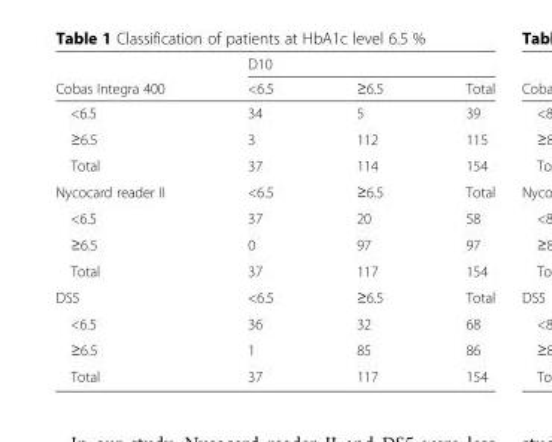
<table><thead><tr><td rowspan="2">Cobas Integra 400</td><td colspan="3">D10</td></tr><tr><td>&lt;6.5</td><td>≥6.5</td><td>Total</td></tr></thead><tbody><tr><td>&lt;6.5</td><td>34</td><td>5</td><td>39</td></tr><tr><td>≥6.5</td><td>3</td><td>112</td><td>115</td></tr><tr><td>Total</td><td>37</td><td>114</td><td>154</td></tr><tr><td>Nycocard reader II</td><td>&lt;6.5</td><td>≥6.5</td><td>Total</td></tr><tr><td>&lt;6.5</td><td>37</td><td>20</td><td>58</td></tr><tr><td>≥6.5</td><td>0</td><td>97</td><td>97</td></tr><tr><td>Total</td><td>37</td><td>117</td><td>154</td></tr><tr><td>DS5</td><td>&lt;6.5</td><td>≥6.5</td><td>Total</td></tr><tr><td>&lt;6.5</td><td>36</td><td>32</td><td>68</td></tr><tr><td>≥6.5</td><td>1</td><td>85</td><td>86</td></tr><tr><td>Total</td><td>37</td><td>117</td><td>154</td></tr></tbody></table>